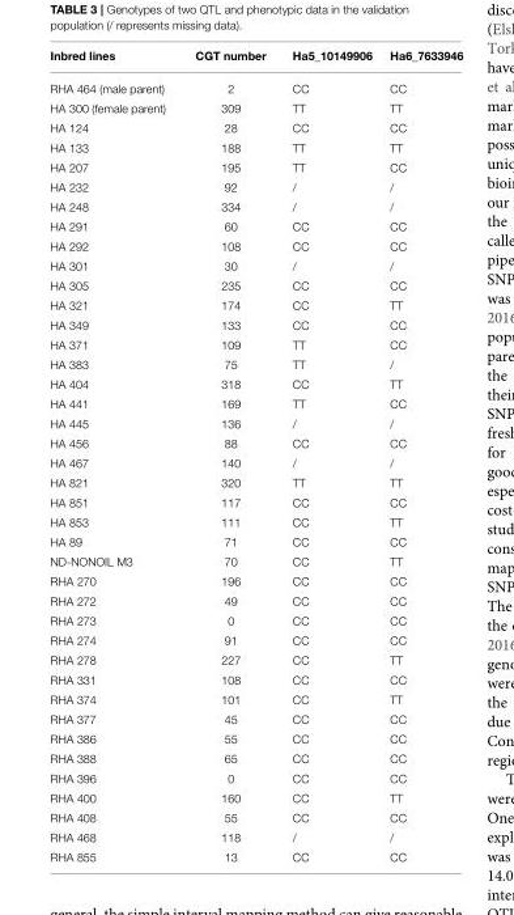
<table><thead><tr><td>Inbred lines</td><td>CGT number</td><td>Ha5_10149906</td><td>Ha6_7633946</td></tr></thead><tbody><tr><td>RHA 464 (male parent)</td><td>2</td><td>CC</td><td>CC</td></tr><tr><td>HA 300 (female parent)</td><td>309</td><td>TT</td><td>TT</td></tr><tr><td>HA 124</td><td>28</td><td>CC</td><td>CC</td></tr><tr><td>HA 133</td><td>188</td><td>TT</td><td>TT</td></tr><tr><td>HA 207</td><td>195</td><td>TT</td><td>CC</td></tr><tr><td>HA 232</td><td>92</td><td>/</td><td>/</td></tr><tr><td>HA 248</td><td>334</td><td>/</td><td>/</td></tr><tr><td>HA 291</td><td>60</td><td>CC</td><td>CC</td></tr><tr><td>HA 292</td><td>108</td><td>CC</td><td>CC</td></tr><tr><td>HA 301</td><td>30</td><td>/</td><td>/</td></tr><tr><td>HA 305</td><td>235</td><td>CC</td><td>CC</td></tr><tr><td>HA 321</td><td>174</td><td>CC</td><td>TT</td></tr><tr><td>HA 349</td><td>133</td><td>CC</td><td>CC</td></tr><tr><td>HA 371</td><td>109</td><td>TT</td><td>CC</td></tr><tr><td>HA 383</td><td>75</td><td>TT</td><td>/</td></tr><tr><td>HA 404</td><td>318</td><td>CC</td><td>TT</td></tr><tr><td>HA 441</td><td>169</td><td>TT</td><td>CC</td></tr><tr><td>HA 445</td><td>136</td><td>/</td><td>/</td></tr><tr><td>HA 456</td><td>88</td><td>CC</td><td>CC</td></tr><tr><td>HA 467</td><td>140</td><td>/</td><td>/</td></tr><tr><td>HA 821</td><td>320</td><td>TT</td><td>TT</td></tr><tr><td>HA 851</td><td>117</td><td>CC</td><td>CC</td></tr><tr><td>HA 853</td><td>111</td><td>CC</td><td>TT</td></tr><tr><td>HA 89</td><td>71</td><td>CC</td><td>CC</td></tr><tr><td>ND-NONOIL M3</td><td>70</td><td>CC</td><td>TT</td></tr><tr><td>RHA 270</td><td>196</td><td>CC</td><td>CC</td></tr><tr><td>RHA 272</td><td>49</td><td>CC</td><td>CC</td></tr><tr><td>RHA 273</td><td>0</td><td>CC</td><td>CC</td></tr><tr><td>RHA 274</td><td>91</td><td>CC</td><td>CC</td></tr><tr><td>RHA 278</td><td>227</td><td>CC</td><td>TT</td></tr><tr><td>RHA 331</td><td>108</td><td>CC</td><td>CC</td></tr><tr><td>RHA 374</td><td>101</td><td>CC</td><td>TT</td></tr><tr><td>RHA 377</td><td>45</td><td>CC</td><td>CC</td></tr><tr><td>RHA 386</td><td>55</td><td>CC</td><td>CC</td></tr><tr><td>RHA 388</td><td>65</td><td>CC</td><td>CC</td></tr><tr><td>RHA 396</td><td>0</td><td>CC</td><td>CC</td></tr><tr><td>RHA 400</td><td>160</td><td>CC</td><td>TT</td></tr><tr><td>RHA 408</td><td>55</td><td>CC</td><td>CC</td></tr><tr><td>RHA 468</td><td>118</td><td>/</td><td>/</td></tr><tr><td>RHA 855</td><td>13</td><td>CC</td><td>CC</td></tr></tbody></table>